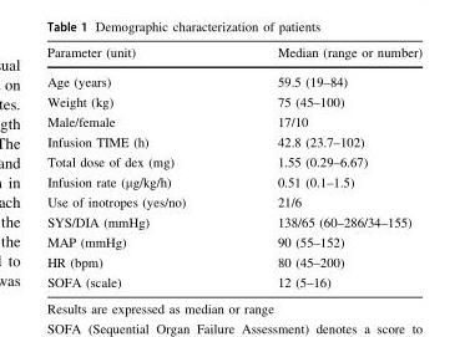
<table><thead><tr><td>Parameter (unit)</td><td>Median (range or number)</td></tr></thead><tbody><tr><td>Age (years)</td><td>59.5 (19–84)</td></tr><tr><td>Weight (kg)</td><td>75 (45–100)</td></tr><tr><td>Male/female</td><td>17/10</td></tr><tr><td>Infusion TIME (h)</td><td>42.8 (23.7–102)</td></tr><tr><td>Total dose of dex (mg)</td><td>1.55 (0.29–6.67)</td></tr><tr><td>Infusion rate (μg/kg/h)</td><td>0.51 (0.1–1.5)</td></tr><tr><td>Use of inotropes (yes/no)</td><td>21/6</td></tr><tr><td>SYS/DIA (mmHg)</td><td>138/65 (60–286/34–155)</td></tr><tr><td>MAP (mmHg)</td><td>90 (55–152)</td></tr><tr><td>HR (bpm)</td><td>80 (45–200)</td></tr><tr><td>SOFA (scale)</td><td>12 (5–16)</td></tr></tbody></table>